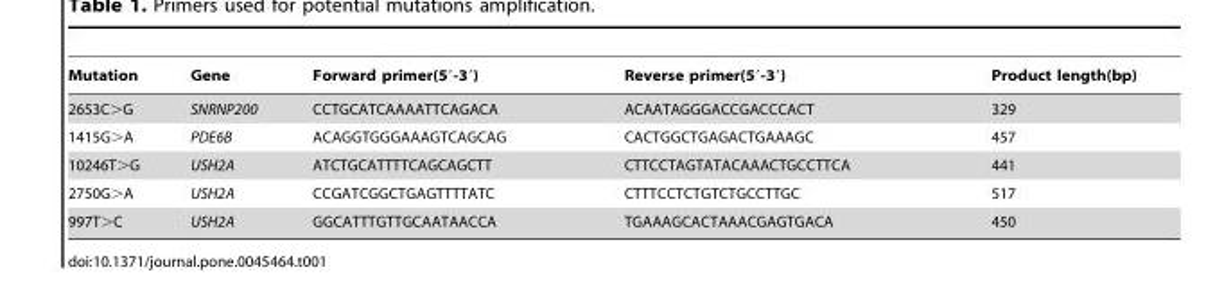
<table><thead><tr><td>Mutation</td><td>Gene</td><td>Forward primer(5′-3′)</td><td>Reverse primer(5′-3′)</td><td>Product length(bp)</td></tr></thead><tbody><tr><td>2653C&gt;G</td><td>SNRNP200</td><td>CCTGCATCAAAATTCAGACA</td><td>ACAATAGGGACCGACCCACT</td><td>329</td></tr><tr><td>1415G&gt;A</td><td>PDE6B</td><td>ACAGGTGGGAAAGTCAGCAG</td><td>CACTGGCTGAGACTGAAAGC</td><td>457</td></tr><tr><td>10246T&gt;G</td><td>USH2A</td><td>ATCTGCATTTTCAGCAGCTT</td><td>CTTCCTAGTATACAAACTGCCTTCA</td><td>441</td></tr><tr><td>2750G&gt;A</td><td>USH2A</td><td>CCGATCGGCTGAGTTTTATC</td><td>CTTTCCTCTGTCTGCCTTGC</td><td>517</td></tr><tr><td>997T&gt;C</td><td>USH2A</td><td>GGCATTTGTTGCAATAACCA</td><td>TGAAAGCACTAAACGAGTGACA</td><td>450</td></tr></tbody></table>